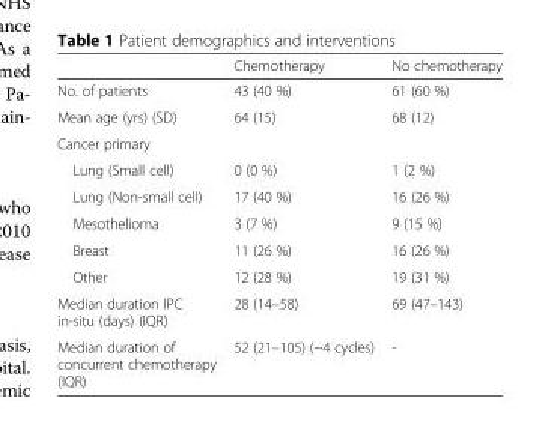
<table><thead><tr><td></td><td>Chemotherapy</td><td>No chemotherapy</td></tr></thead><tbody><tr><td>No. of patients</td><td>43 (40 %)</td><td>61 (60 %)</td></tr><tr><td>Mean age (yrs) (SD)</td><td>64 (15)</td><td>68 (12)</td></tr><tr><td colspan="3">Cancer primary</td></tr><tr><td>Lung (Small cell)</td><td>0 (0 %)</td><td>1 (2 %)</td></tr><tr><td>Lung (Non-small cell)</td><td>17 (40 %)</td><td>16 (26 %)</td></tr><tr><td>Mesothelioma</td><td>3 (7 %)</td><td>9 (15 %)</td></tr><tr><td>Breast</td><td>11 (26 %)</td><td>16 (26 %)</td></tr><tr><td>Other</td><td>12 (28 %)</td><td>19 (31 %)</td></tr><tr><td>Median duration IPC in-situ (days) (IQR)</td><td>28 (14–58)</td><td>69 (47–143)</td></tr><tr><td>Median duration of concurrent chemotherapy (IQR)</td><td>52 (21–105) (~4 cycles)</td><td>-</td></tr></tbody></table>